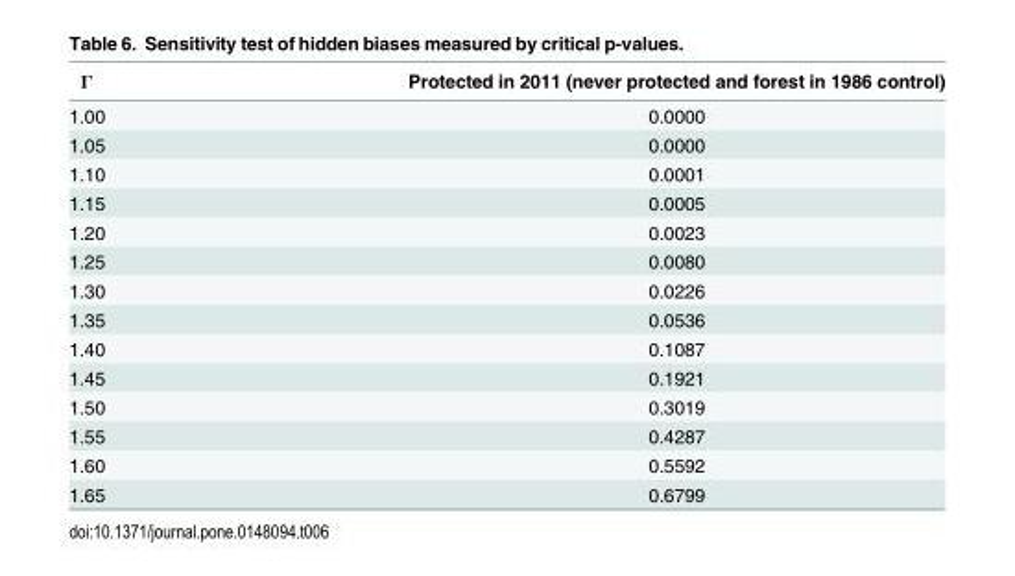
<table><thead><tr><td>Γ</td><td>Protected in 2011 (never protected and forest in 1986 control)</td></tr></thead><tbody><tr><td>1.00</td><td>0.0000</td></tr><tr><td>1.05</td><td>0.0000</td></tr><tr><td>1.10</td><td>0.0001</td></tr><tr><td>1.15</td><td>0.0005</td></tr><tr><td>1.20</td><td>0.0023</td></tr><tr><td>1.25</td><td>0.0080</td></tr><tr><td>1.30</td><td>0.0226</td></tr><tr><td>1.35</td><td>0.0536</td></tr><tr><td>1.40</td><td>0.1087</td></tr><tr><td>1.45</td><td>0.1921</td></tr><tr><td>1.50</td><td>0.3019</td></tr><tr><td>1.55</td><td>0.4287</td></tr><tr><td>1.60</td><td>0.5592</td></tr><tr><td>1.65</td><td>0.6799</td></tr></tbody></table>